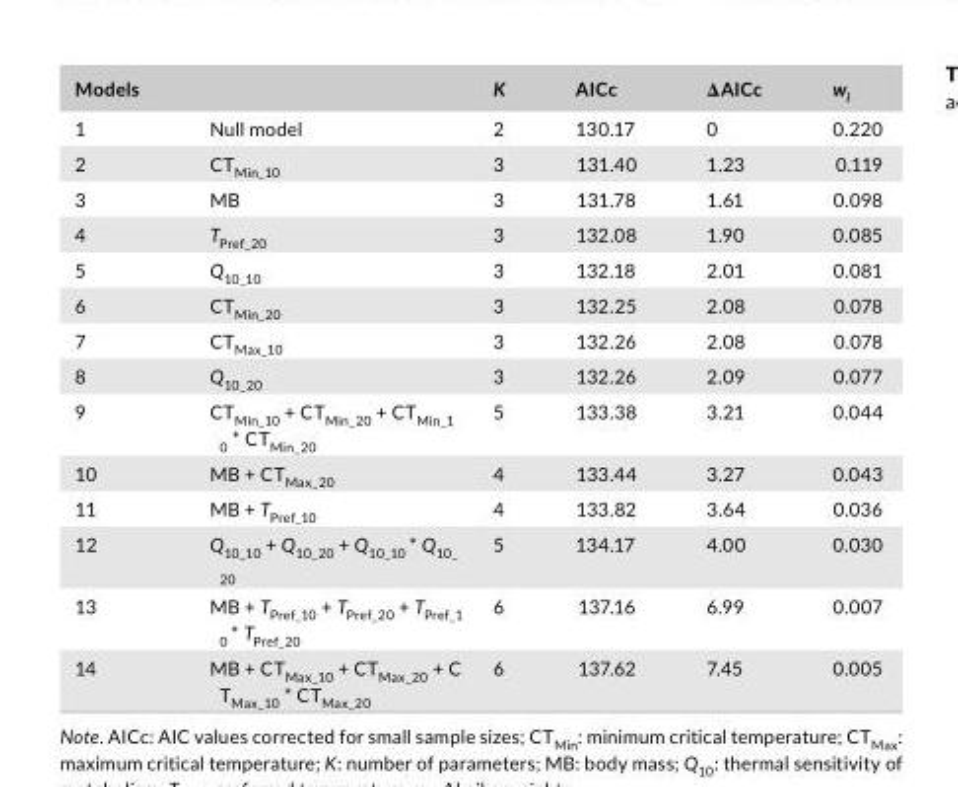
<table><thead><tr><td>Models</td><td></td><td>K</td><td>AICc</td><td>ΔAICc</td><td>w<sub>i</sub></td></tr></thead><tbody><tr><td>1</td><td>Null model</td><td>2</td><td>130.17</td><td>0</td><td>0.220</td></tr><tr><td>2</td><td>CT<sub>Min_10</sub></td><td>3</td><td>131.40</td><td>1.23</td><td>0.119</td></tr><tr><td>3</td><td>MB</td><td>3</td><td>131.78</td><td>1.61</td><td>0.098</td></tr><tr><td>4</td><td>T<sub>Pref_20</sub></td><td>3</td><td>132.08</td><td>1.90</td><td>0.085</td></tr><tr><td>5</td><td>Q<sub>10_10</sub></td><td>3</td><td>132.18</td><td>2.01</td><td>0.081</td></tr><tr><td>6</td><td>CT<sub>Min_20</sub></td><td>3</td><td>132.25</td><td>2.08</td><td>0.078</td></tr><tr><td>7</td><td>CT<sub>Max_10</sub></td><td>3</td><td>132.26</td><td>2.08</td><td>0.078</td></tr><tr><td>8</td><td>Q<sub>10_20</sub></td><td>3</td><td>132.26</td><td>2.09</td><td>0.077</td></tr><tr><td>9</td><td>CT<sub>Min_10</sub> + CT<sub>Min_20</sub> + CT<sub>Min_1 0</sub> * CT<sub>Min_20</sub></td><td>5</td><td>133.38</td><td>3.21</td><td>0.044</td></tr><tr><td>10</td><td>MB + CT<sub>Max_20</sub></td><td>4</td><td>133.44</td><td>3.27</td><td>0.043</td></tr><tr><td>11</td><td>MB + T<sub>Pref_10</sub></td><td>4</td><td>133.82</td><td>3.64</td><td>0.036</td></tr><tr><td>12</td><td>Q<sub>10_10</sub> + Q<sub>10_20</sub> + Q<sub>10_10</sub> * Q<sub>10_ 20</sub></td><td>5</td><td>134.17</td><td>4.00</td><td>0.030</td></tr><tr><td>13</td><td>MB + T<sub>Pref_10</sub> + T<sub>Pref_20</sub> + T<sub>Pref_1 0</sub> * T<sub>Pref_20</sub></td><td>6</td><td>137.16</td><td>6.99</td><td>0.007</td></tr><tr><td>14</td><td>MB + CT<sub>Max_10</sub> + CT<sub>Max_20</sub> + C T<sub>Max_10</sub> * CT<sub>Max_20</sub></td><td>6</td><td>137.62</td><td>7.45</td><td>0.005</td></tr></tbody></table>